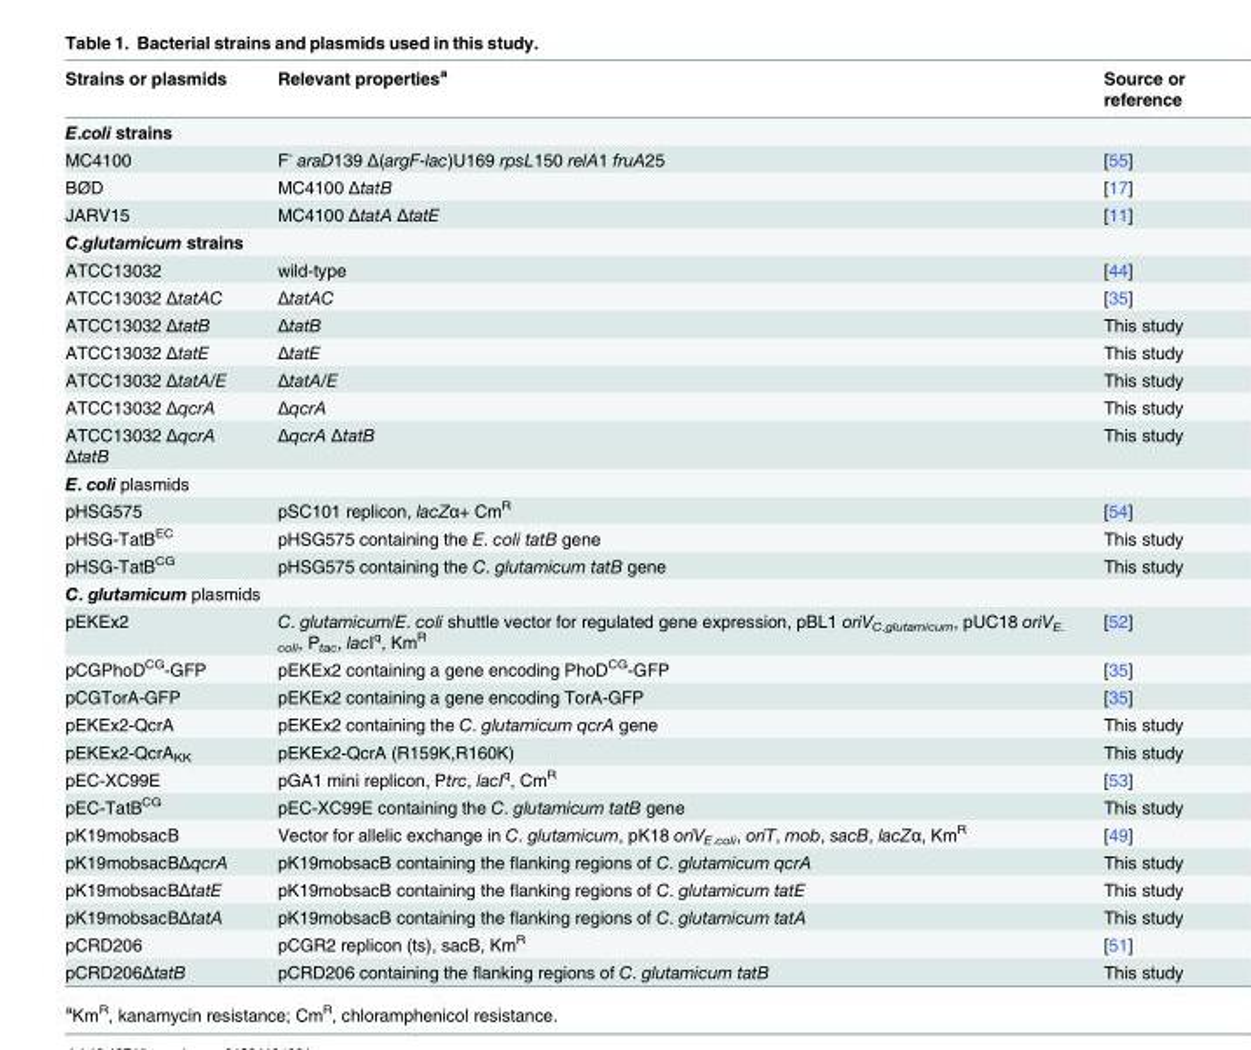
<table><thead><tr><td>Strains or plasmids</td><td>Relevant properties<sup>a</sup></td><td>Source or reference</td></tr></thead><tbody><tr><td colspan="3">E.coli strains</td></tr><tr><td>MC4100</td><td>F<sup>-</sup> araD139 Δ(argF-lac)U169 rpsL150 relA1 fruA25</td><td>[55]</td></tr><tr><td>BØD</td><td>MC4100 ΔtatB</td><td>[17]</td></tr><tr><td>JARV15</td><td>MC4100 ΔtatA ΔtatE</td><td>[11]</td></tr><tr><td colspan="3">C.glutamicum strains</td></tr><tr><td>ATCC13032</td><td>wild-type</td><td>[44]</td></tr><tr><td>ATCC13032 ΔtatAC</td><td>ΔtatAC</td><td>[35]</td></tr><tr><td>ATCC13032 ΔtatB</td><td>ΔtatB</td><td>This study</td></tr><tr><td>ATCC13032 ΔtatE</td><td>ΔtatE</td><td>This study</td></tr><tr><td>ATCC13032 ΔtatA/E</td><td>ΔtatA/E</td><td>This study</td></tr><tr><td>ATCC13032 ΔqcrA</td><td>ΔqcrA</td><td>This study</td></tr><tr><td>ATCC13032 ΔqcrA ΔtatB</td><td>ΔqcrA ΔtatB</td><td>This study</td></tr><tr><td colspan="3">E. coli plasmids</td></tr><tr><td>pHSG575</td><td>pSC101 replicon, lacZα+ Cm<sup>R</sup></td><td>[54]</td></tr><tr><td>pHSG-TatB<sup>EC</sup></td><td>pHSG575 containing the E. coli tatB gene</td><td>This study</td></tr><tr><td>pHSG-TatB<sup>CG</sup></td><td>pHSG575 containing the C. glutamicum tatB gene</td><td>This study</td></tr><tr><td colspan="3">C. glutamicum plasmids</td></tr><tr><td>pEKEx2</td><td>C. glutamicum/E. coli shuttle vector for regulated gene expression, pBL1 oriV<sub>C.glutamicum</sub>, pUC18 oriV<sub>E. coli</sub>, P<sub>tac</sub>, lacI<sup>q</sup>, Km<sup>R</sup></td><td>[52]</td></tr><tr><td>pCGPhoD<sup>CG</sup>-GFP</td><td>pEKEx2 containing a gene encoding PhoD<sup>CG</sup>-GFP</td><td>[35]</td></tr><tr><td>pCGTorA-GFP</td><td>pEKEx2 containing a gene encoding TorA-GFP</td><td>[35]</td></tr><tr><td>pEKEx2-QcrA</td><td>pEKEx2 containing the C. glutamicum qcrA gene</td><td>This study</td></tr><tr><td>pEKEx2-QcrA<sub>KK</sub></td><td>pEKEx2-QcrA (R159K,R160K)</td><td>This study</td></tr><tr><td>pEC-XC99E</td><td>pGA1 mini replicon, Ptrc, lacI<sup>q</sup>, Cm<sup>R</sup></td><td>[53]</td></tr><tr><td>pEC-TatB<sup>CG</sup></td><td>pEC-XC99E containing the C. glutamicum tatB gene</td><td>This study</td></tr><tr><td>pK19mobsacB</td><td>Vector for allelic exchange in C. glutamicum, pK18 oriV<sub>E.coli</sub>, oriT, mob, sacB, lacZα, Km<sup>R</sup></td><td>[49]</td></tr><tr><td>pK19mobsacBΔqcrA</td><td>pK19mobsacB containing the flanking regions of C. glutamicum qcrA</td><td>This study</td></tr><tr><td>pK19mobsacBΔtatE</td><td>pK19mobsacB containing the flanking regions of C. glutamicum tatE</td><td>This study</td></tr><tr><td>pK19mobsacBΔtatA</td><td>pK19mobsacB containing the flanking regions of C. glutamicum tatA</td><td>This study</td></tr><tr><td>pCRD206</td><td>pCGR2 replicon (ts), sacB, Km<sup>R</sup></td><td>[51]</td></tr><tr><td>pCRD206ΔtatB</td><td>pCRD206 containing the flanking regions of C. glutamicum tatB</td><td>This study</td></tr></tbody></table>